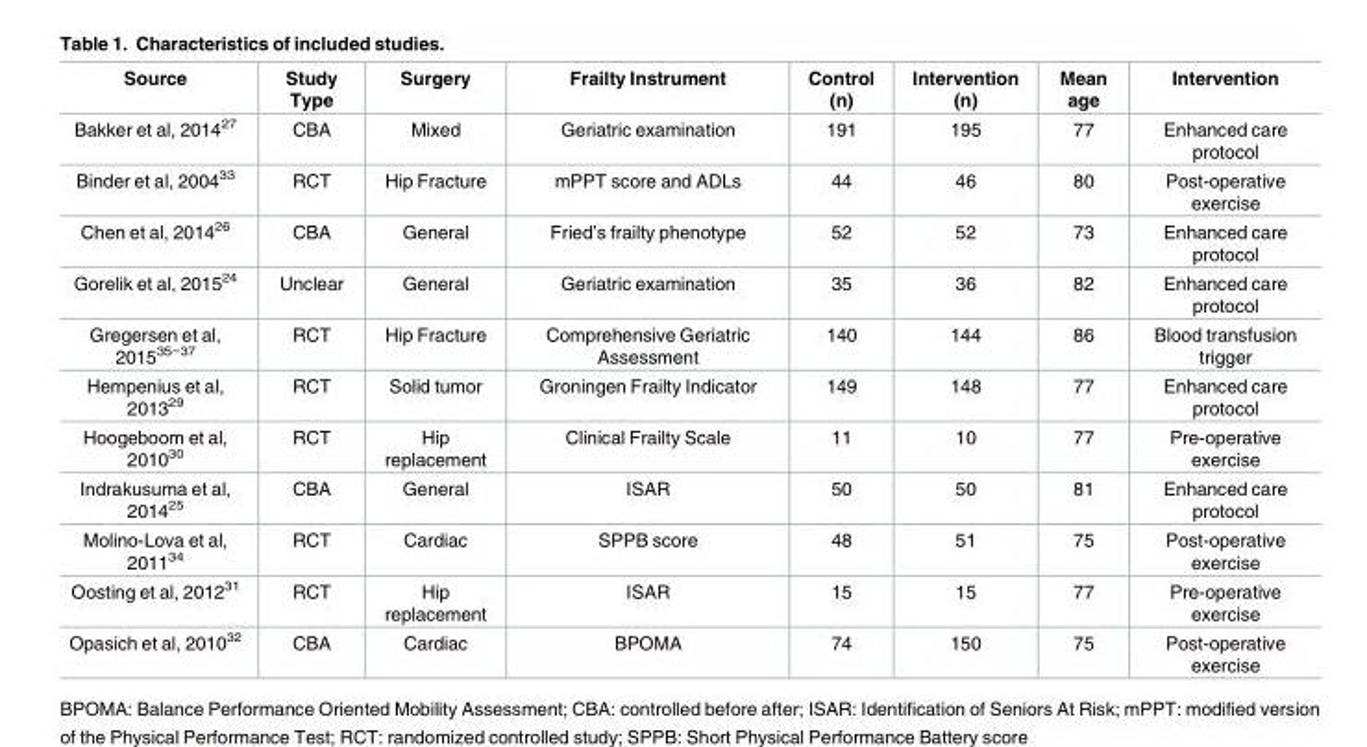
<table><thead><tr><td>Source</td><td>Study Type</td><td>Surgery</td><td>Frailty Instrument</td><td>Control (n)</td><td>Intervention (n)</td><td>Mean age</td><td>Intervention</td></tr></thead><tbody><tr><td>Bakker et al, 2014<sup>27</sup></td><td>CBA</td><td>Mixed</td><td>Geriatric examination</td><td>191</td><td>195</td><td>77</td><td>Enhanced care protocol</td></tr><tr><td>Binder et al, 2004<sup>33</sup></td><td>RCT</td><td>Hip Fracture</td><td>mPPT score and ADLs</td><td>44</td><td>46</td><td>80</td><td>Post-operative exercise</td></tr><tr><td>Chen et al, 2014<sup>26</sup></td><td>CBA</td><td>General</td><td>Fried’s frailty phenotype</td><td>52</td><td>52</td><td>73</td><td>Enhanced care protocol</td></tr><tr><td>Gorelik et al, 2015<sup>24</sup></td><td>Unclear</td><td>General</td><td>Geriatric examination</td><td>35</td><td>36</td><td>82</td><td>Enhanced care protocol</td></tr><tr><td>Gregersen et al, 2015<sup>35−37</sup></td><td>RCT</td><td>Hip Fracture</td><td>Comprehensive Geriatric Assessment</td><td>140</td><td>144</td><td>86</td><td>Blood transfusion trigger</td></tr><tr><td>Hempenius et al, 2013<sup>29</sup></td><td>RCT</td><td>Solid tumor</td><td>Groningen Frailty Indicator</td><td>149</td><td>148</td><td>77</td><td>Enhanced care protocol</td></tr><tr><td>Hoogeboom et al, 2010<sup>30</sup></td><td>RCT</td><td>Hip replacement</td><td>Clinical Frailty Scale</td><td>11</td><td>10</td><td>77</td><td>Pre-operative exercise</td></tr><tr><td>Indrakusuma et al, 2014<sup>25</sup></td><td>CBA</td><td>General</td><td>ISAR</td><td>50</td><td>50</td><td>81</td><td>Enhanced care protocol</td></tr><tr><td>Molino-Lova et al, 2011<sup>34</sup></td><td>RCT</td><td>Cardiac</td><td>SPPB score</td><td>48</td><td>51</td><td>75</td><td>Post-operative exercise</td></tr><tr><td>Oosting et al, 2012<sup>31</sup></td><td>RCT</td><td>Hip replacement</td><td>ISAR</td><td>15</td><td>15</td><td>77</td><td>Pre-operative exercise</td></tr><tr><td>Opasich et al, 2010<sup>32</sup></td><td>CBA</td><td>Cardiac</td><td>BPOMA</td><td>74</td><td>150</td><td>75</td><td>Post-operative exercise</td></tr></tbody></table>